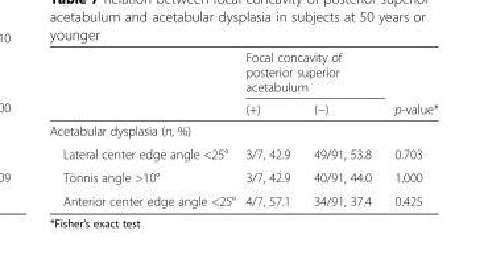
<table><thead><tr><td rowspan="2"></td><td colspan="2">Focal concavity of posterior superior acetabulum</td><td rowspan="2">p-value*</td></tr><tr><td>(+)</td><td>(−)</td></tr></thead><tbody><tr><td colspan="4">Acetabular dysplasia (n, %)</td></tr><tr><td>Lateral center edge angle &lt;25°</td><td>3/7, 42.9</td><td>49/91, 53.8</td><td>0.703</td></tr><tr><td>Tönnis angle &gt;10°</td><td>3/7, 42.9</td><td>40/91, 44.0</td><td>1.000</td></tr><tr><td>Anterior center edge angle &lt;25°</td><td>4/7, 57.1</td><td>34/91, 37.4</td><td>0.425</td></tr></tbody></table>